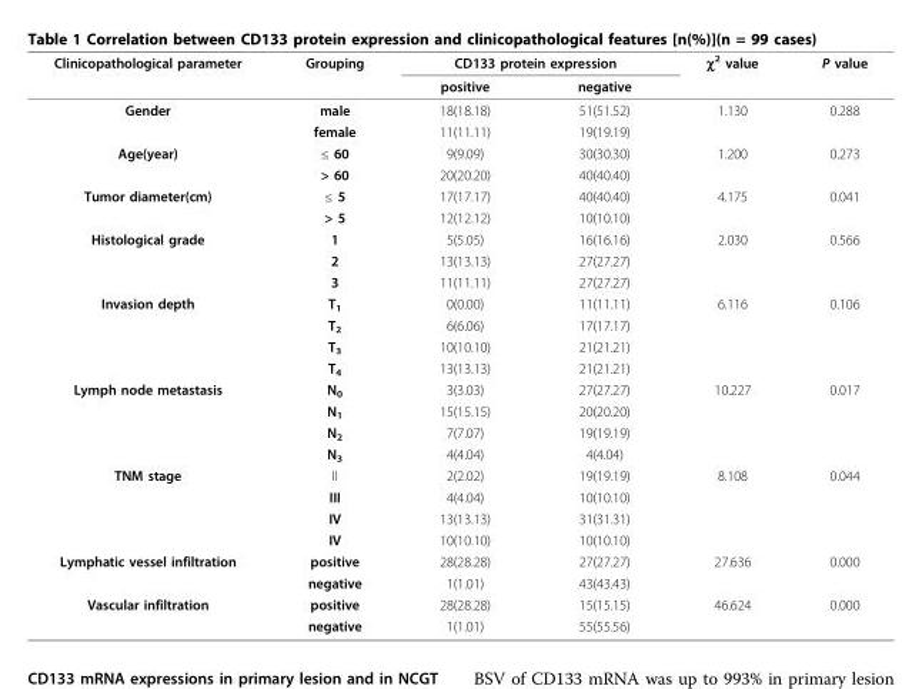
<table><thead><tr><td rowspan="2">Clinicopathological parameter</td><td rowspan="2">Grouping</td><td colspan="2">CD133 protein expression</td><td rowspan="2">χ<sup>2</sup> value</td><td rowspan="2">P value</td></tr><tr><td>positive</td><td>negative</td></tr></thead><tbody><tr><td rowspan="2">Gender</td><td>male</td><td>18(18.18)</td><td>51(51.52)</td><td>1.130</td><td>0.288</td></tr><tr><td>female</td><td>11(11.11)</td><td>19(19.19)</td><td></td><td></td></tr><tr><td rowspan="2">Age(year)</td><td>≤ 60</td><td>9(9.09)</td><td>30(30.30)</td><td>1.200</td><td>0.273</td></tr><tr><td>&gt; 60</td><td>20(20.20)</td><td>40(40.40)</td><td></td><td></td></tr><tr><td rowspan="2">Tumor diameter(cm)</td><td>≤ 5</td><td>17(17.17)</td><td>40(40.40)</td><td>4.175</td><td>0.041</td></tr><tr><td>&gt; 5</td><td>12(12.12)</td><td>10(10.10)</td><td></td><td></td></tr><tr><td rowspan="3">Histological grade</td><td>1</td><td>5(5.05)</td><td>16(16.16)</td><td>2.030</td><td>0.566</td></tr><tr><td>2</td><td>13(13.13)</td><td>27(27.27)</td><td></td><td></td></tr><tr><td>3</td><td>11(11.11)</td><td>27(27.27)</td><td></td><td></td></tr><tr><td rowspan="4">Invasion depth</td><td>T<sub>1</sub></td><td>0(0.00)</td><td>11(11.11)</td><td>6.116</td><td>0.106</td></tr><tr><td>T<sub>2</sub></td><td>6(6.06)</td><td>17(17.17)</td><td></td><td></td></tr><tr><td>T<sub>3</sub></td><td>10(10.10)</td><td>21(21.21)</td><td></td><td></td></tr><tr><td>T<sub>4</sub></td><td>13(13.13)</td><td>21(21.21)</td><td></td><td></td></tr><tr><td rowspan="4">Lymph node metastasis</td><td>N<sub>0</sub></td><td>3(3.03)</td><td>27(27.27)</td><td>10.227</td><td>0.017</td></tr><tr><td>N<sub>1</sub></td><td>15(15.15)</td><td>20(20.20)</td><td></td><td></td></tr><tr><td>N<sub>2</sub></td><td>7(7.07)</td><td>19(19.19)</td><td></td><td></td></tr><tr><td>N<sub>3</sub></td><td>4(4.04)</td><td>4(4.04)</td><td></td><td></td></tr><tr><td rowspan="4">TNM stage</td><td>II</td><td>2(2.02)</td><td>19(19.19)</td><td>8.108</td><td>0.044</td></tr><tr><td>III</td><td>4(4.04)</td><td>10(10.10)</td><td></td><td></td></tr><tr><td>IV</td><td>13(13.13)</td><td>31(31.31)</td><td></td><td></td></tr><tr><td>IV</td><td>10(10.10)</td><td>10(10.10)</td><td></td><td></td></tr><tr><td rowspan="2">Lymphatic vessel infiltration</td><td>positive</td><td>28(28.28)</td><td>27(27.27)</td><td>27.636</td><td>0.000</td></tr><tr><td>negative</td><td>1(1.01)</td><td>43(43.43)</td><td></td><td></td></tr><tr><td rowspan="2">Vascular infiltration</td><td>positive</td><td>28(28.28)</td><td>15(15.15)</td><td>46.624</td><td>0.000</td></tr><tr><td>negative</td><td>1(1.01)</td><td>55(55.56)</td><td></td><td></td></tr></tbody></table>